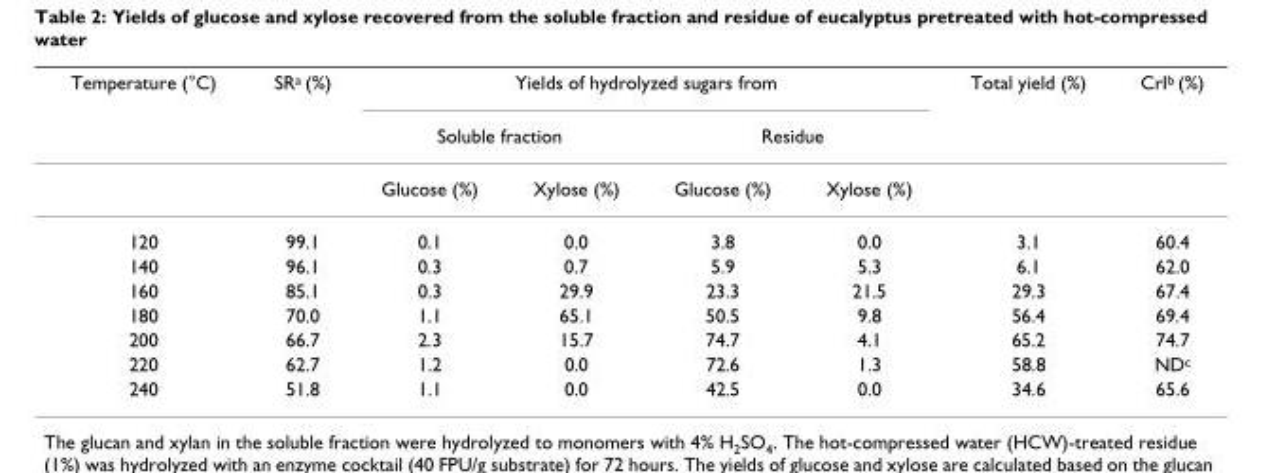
<table><thead><tr><td rowspan="3">Temperature (°C)</td><td rowspan="3">SR<sup>a</sup> (%)</td><td colspan="4">Yields of hydrolyzed sugars from</td><td rowspan="3">Total yield (%)</td><td rowspan="3">CrI<sup>b</sup> (%)</td></tr><tr><td colspan="2">Soluble fraction</td><td colspan="2">Residue</td></tr><tr><td>Glucose (%)</td><td>Xylose (%)</td><td>Glucose (%)</td><td>Xylose (%)</td></tr></thead><tbody><tr><td>120</td><td>99.1</td><td>0.1</td><td>0.0</td><td>3.8</td><td>0.0</td><td>3.1</td><td>60.4</td></tr><tr><td>140</td><td>96.1</td><td>0.3</td><td>0.7</td><td>5.9</td><td>5.3</td><td>6.1</td><td>62.0</td></tr><tr><td>160</td><td>85.1</td><td>0.3</td><td>29.9</td><td>23.3</td><td>21.5</td><td>29.3</td><td>67.4</td></tr><tr><td>180</td><td>70.0</td><td>1.1</td><td>65.1</td><td>50.5</td><td>9.8</td><td>56.4</td><td>69.4</td></tr><tr><td>200</td><td>66.7</td><td>2.3</td><td>15.7</td><td>74.7</td><td>4.1</td><td>65.2</td><td>74.7</td></tr><tr><td>220</td><td>62.7</td><td>1.2</td><td>0.0</td><td>72.6</td><td>1.3</td><td>58.8</td><td>ND<sup>c</sup></td></tr><tr><td>240</td><td>51.8</td><td>1.1</td><td>0.0</td><td>42.5</td><td>0.0</td><td>34.6</td><td>65.6</td></tr></tbody></table>